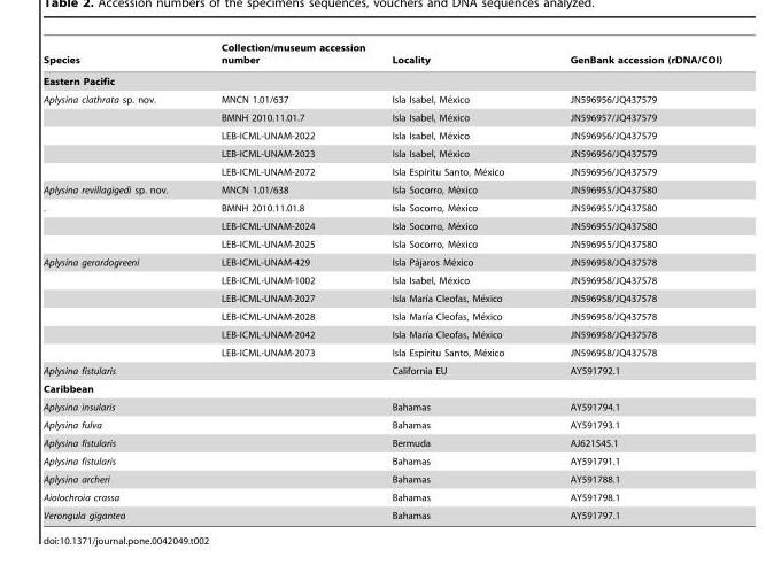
<table><thead><tr><td>Species</td><td>Collection/museum accession number</td><td>Locality</td><td>GenBank accession (rDNA/COI)</td></tr></thead><tbody><tr><td colspan="4">Eastern Pacific</td></tr><tr><td rowspan="5">Aplysina clathrata sp. nov.</td><td>MNCN 1.01/637</td><td>Isla Isabel, Me´xico</td><td>JN596956/JQ437579</td></tr><tr><td>BMNH 2010.11.01.7</td><td>Isla Isabel, Me´xico</td><td>JN596957/JQ437579</td></tr><tr><td>LEB-ICML-UNAM-2022</td><td>Isla Isabel, Me´xico</td><td>JN596956/JQ437579</td></tr><tr><td>LEB-ICML-UNAM-2023</td><td>Isla Isabel, Me´xico</td><td>JN596956/JQ437579</td></tr><tr><td>LEB-ICML-UNAM-2072</td><td>Isla Espı´ritu Santo, Me´xico</td><td>JN596956/JQ437579</td></tr><tr><td>Aplysina revillagigedi sp. nov.</td><td>MNCN 1.01/638</td><td>Isla Socorro, Me´xico</td><td>JN596955/JQ437580</td></tr><tr><td rowspan="3">.</td><td>BMNH 2010.11.01.8</td><td>Isla Socorro, Me´xico</td><td>JN596955/JQ437580</td></tr><tr><td>LEB-ICML-UNAM-2024</td><td>Isla Socorro, Me´xico</td><td>JN596955/JQ437580</td></tr><tr><td>LEB-ICML-UNAM-2025</td><td>Isla Socorro, Me´xico</td><td>JN596955/JQ437580</td></tr><tr><td rowspan="6">Aplysina gerardogreeni</td><td>LEB-ICML-UNAM-429</td><td>Isla Pa´jaros Me´xico</td><td>JN596958/JQ437578</td></tr><tr><td>LEB-ICML-UNAM-1002</td><td>Isla Isabel, Me´xico</td><td>JN596958/JQ437578</td></tr><tr><td>LEB-ICML-UNAM-2027</td><td>Isla Marı´a Cleofas, Me´xico</td><td>JN596958/JQ437578</td></tr><tr><td>LEB-ICML-UNAM-2028</td><td>Isla Marı´a Cleofas, Me´xico</td><td>JN596958/JQ437578</td></tr><tr><td>LEB-ICML-UNAM-2042</td><td>Isla Marı´a Cleofas, Me´xico</td><td>JN596958/JQ437578</td></tr><tr><td>LEB-ICML-UNAM-2073</td><td>Isla Espı´ritu Santo, Me´xico</td><td>JN596958/JQ437578</td></tr><tr><td>Aplysina fistularis</td><td></td><td>California EU</td><td>AY591792.1</td></tr><tr><td colspan="4">Caribbean</td></tr><tr><td>Aplysina insularis</td><td></td><td>Bahamas</td><td>AY591794.1</td></tr><tr><td>Aplysina fulva</td><td></td><td>Bahamas</td><td>AY591793.1</td></tr><tr><td>Aplysina fistularis</td><td></td><td>Bermuda</td><td>AJ621545.1</td></tr><tr><td>Aplysina fistularis</td><td></td><td>Bahamas</td><td>AY591791.1</td></tr><tr><td>Aplysina archeri</td><td></td><td>Bahamas</td><td>AY591788.1</td></tr><tr><td>Aiolochroia crassa</td><td></td><td>Bahamas</td><td>AY591798.1</td></tr><tr><td>Verongula gigantea</td><td></td><td>Bahamas</td><td>AY591797.1</td></tr></tbody></table>